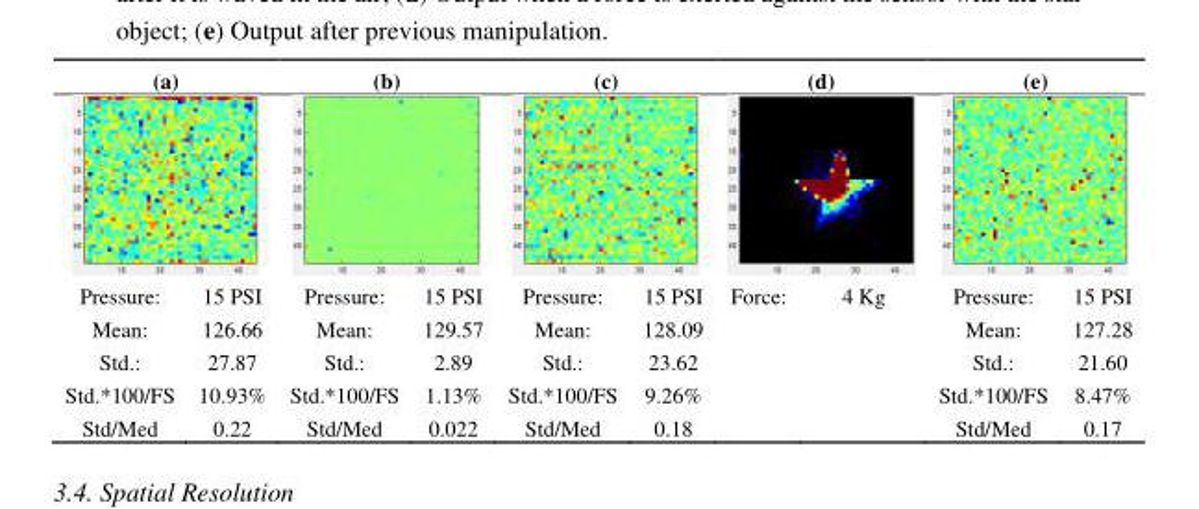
<table><thead><tr><td colspan="2">(a)</td><td colspan="2">(b)</td><td colspan="2">(c)</td><td colspan="2">(d)</td><td colspan="2">(e)</td></tr><tr><td>Pressure:</td><td>15 PSI</td><td>Pressure:</td><td>15 PSI</td><td>Pressure:</td><td>15 PSI</td><td>Force:</td><td>4 Kg</td><td>Pressure:</td><td>15 PSI</td></tr></thead><tbody><tr><td>Mean:</td><td>126.66</td><td>Mean:</td><td>129.57</td><td>Mean:</td><td>128.09</td><td></td><td></td><td>Mean:</td><td>127.28</td></tr><tr><td>Std.:</td><td>27.87</td><td>Std.:</td><td>2.89</td><td>Std.:</td><td>23.62</td><td></td><td></td><td>Std.:</td><td>21.60</td></tr><tr><td>Std.*100/FS</td><td>10.93%</td><td>Std.*100/FS</td><td>1.13%</td><td>Std.*100/FS</td><td>9.26%</td><td></td><td></td><td>Std.*100/FS</td><td>8.47%</td></tr><tr><td>Std/Med</td><td>0.22</td><td>Std/Med</td><td>0.022</td><td>Std/Med</td><td>0.18</td><td></td><td></td><td>Std/Med</td><td>0.17</td></tr></tbody></table>